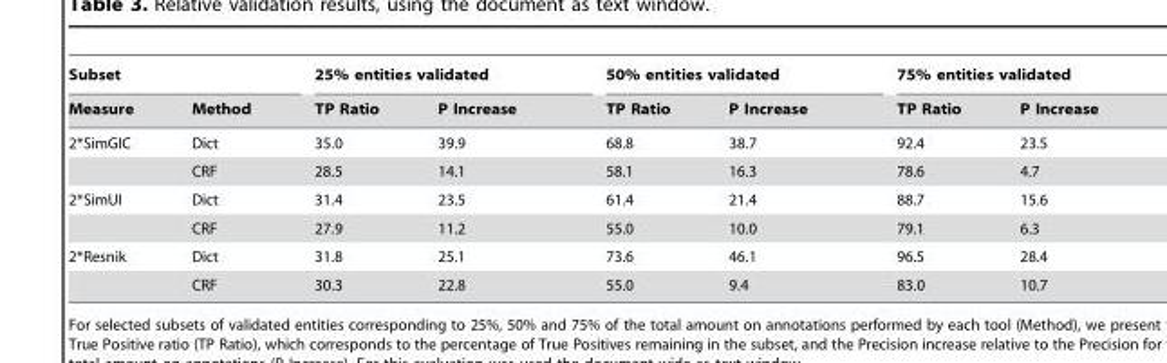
<table><thead><tr><td colspan="2">Subset</td><td colspan="2">25% entities validated</td><td colspan="2">50% entities validated</td><td colspan="2">75% entities validated</td></tr><tr><td>Measure</td><td>Method</td><td>TP Ratio</td><td>P Increase</td><td>TP Ratio</td><td>P Increase</td><td>TP Ratio</td><td>P Increase</td></tr></thead><tbody><tr><td rowspan="2">2*SimGIC</td><td>Dict</td><td>35.0</td><td>39.9</td><td>68.8</td><td>38.7</td><td>92.4</td><td>23.5</td></tr><tr><td>CRF</td><td>28.5</td><td>14.1</td><td>58.1</td><td>16.3</td><td>78.6</td><td>4.7</td></tr><tr><td rowspan="2">2*SimUI</td><td>Dict</td><td>31.4</td><td>23.5</td><td>61.4</td><td>21.4</td><td>88.7</td><td>15.6</td></tr><tr><td>CRF</td><td>27.9</td><td>11.2</td><td>55.0</td><td>10.0</td><td>79.1</td><td>6.3</td></tr><tr><td rowspan="2">2*Resnik</td><td>Dict</td><td>31.8</td><td>25.1</td><td>73.6</td><td>46.1</td><td>96.5</td><td>28.4</td></tr><tr><td>CRF</td><td>30.3</td><td>22.8</td><td>55.0</td><td>9.4</td><td>83.0</td><td>10.7</td></tr></tbody></table>